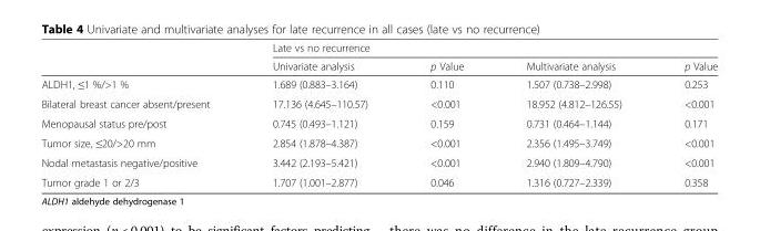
<table><thead><tr><td rowspan="2"></td><td colspan="4">Late vs no recurrence</td></tr><tr><td>Univariate analysis</td><td>p Value</td><td>Multivariate analysis</td><td>p Value</td></tr></thead><tbody><tr><td>ALDH1, ≤1 %/&gt;1 %</td><td>1.689 (0.883–3.164)</td><td>0.110</td><td>1.507 (0.738–2.998)</td><td>0.253</td></tr><tr><td>Bilateral breast cancer absent/present</td><td>17.136 (4.645–110.57)</td><td>&lt;0.001</td><td>18.952 (4.812–126.55)</td><td>&lt;0.001</td></tr><tr><td>Menopausal status pre/post</td><td>0.745 (0.493–1.121)</td><td>0.159</td><td>0.731 (0.464–1.144)</td><td>0.171</td></tr><tr><td>Tumor size, ≤20/&gt;20 mm</td><td>2.854 (1.878–4.387)</td><td>&lt;0.001</td><td>2.356 (1.495–3.749)</td><td>&lt;0.001</td></tr><tr><td>Nodal metastasis negative/positive</td><td>3.442 (2.193–5.421)</td><td>&lt;0.001</td><td>2.940 (1.809–4.790)</td><td>&lt;0.001</td></tr><tr><td>Tumor grade 1 or 2/3</td><td>1.707 (1.001–2.877)</td><td>0.046</td><td>1.316 (0.727–2.339)</td><td>0.358</td></tr></tbody></table>